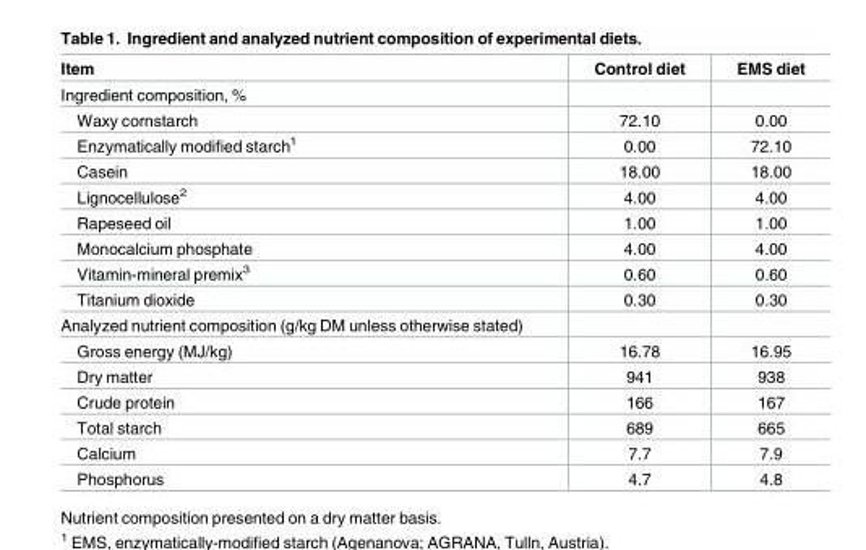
<table><thead><tr><td>Item</td><td>Control diet</td><td>EMS diet</td></tr></thead><tbody><tr><td colspan="3">Ingredient composition, %</td></tr><tr><td>Waxy cornstarch</td><td>72.10</td><td>0.00</td></tr><tr><td>Enzymatically modified starch<sup>1</sup></td><td>0.00</td><td>72.10</td></tr><tr><td>Casein</td><td>18.00</td><td>18.00</td></tr><tr><td>Lignocellulose<sup>2</sup></td><td>4.00</td><td>4.00</td></tr><tr><td>Rapeseed oil</td><td>1.00</td><td>1.00</td></tr><tr><td>Monocalcium phosphate</td><td>4.00</td><td>4.00</td></tr><tr><td>Vitamin-mineral premix<sup>3</sup></td><td>0.60</td><td>0.60</td></tr><tr><td>Titanium dioxide</td><td>0.30</td><td>0.30</td></tr><tr><td colspan="3">Analyzed nutrient composition (g/kg DM unless otherwise stated)</td></tr><tr><td>Gross energy (MJ/kg)</td><td>16.78</td><td>16.95</td></tr><tr><td>Dry matter</td><td>941</td><td>938</td></tr><tr><td>Crude protein</td><td>166</td><td>167</td></tr><tr><td>Total starch</td><td>689</td><td>665</td></tr><tr><td>Calcium</td><td>7.7</td><td>7.9</td></tr><tr><td>Phosphorus</td><td>4.7</td><td>4.8</td></tr></tbody></table>